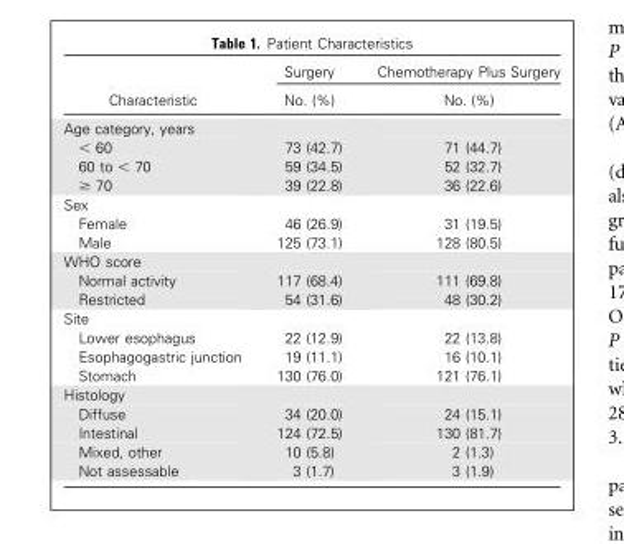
<table><thead><tr><td rowspan="2">Characteristic</td><td rowspan="2">Surgery No. (%)</td><td rowspan="2">Chemotherapy Plus Surgery No. (%)</td></tr><tr></tr></thead><tbody><tr><td colspan="3">Age category, years</td></tr><tr><td>&lt; 60</td><td>73 (42.7)</td><td>71 (44.7)</td></tr><tr><td>60 to &lt; 70</td><td>59 (34.5)</td><td>52 (32.7)</td></tr><tr><td>≥ 70</td><td>39 (22.8)</td><td>36 (22.6)</td></tr><tr><td colspan="3">Sex</td></tr><tr><td>Female</td><td>46 (26.9)</td><td>31 (19.5)</td></tr><tr><td>Male</td><td>125 (73.1)</td><td>128 (80.5)</td></tr><tr><td colspan="3">WHO score</td></tr><tr><td>Normal activity</td><td>117 (68.4)</td><td>111 (69.8)</td></tr><tr><td>Restricted</td><td>54 (31.6)</td><td>48 (30.2)</td></tr><tr><td colspan="3">Site</td></tr><tr><td>Lower esophagus</td><td>22 (12.9)</td><td>22 (13.8)</td></tr><tr><td>Esophagogastric junction</td><td>19 (11.1)</td><td>16 (10.1)</td></tr><tr><td>Stomach</td><td>130 (76.0)</td><td>121 (76.1)</td></tr><tr><td colspan="3">Histology</td></tr><tr><td>Diffuse</td><td>34 (20.0)</td><td>24 (15.1)</td></tr><tr><td>Intestinal</td><td>124 (72.5)</td><td>130 (81.7)</td></tr><tr><td>Mixed, other</td><td>10 (5.8)</td><td>2 (1.3)</td></tr><tr><td>Not assessable</td><td>3 (1.7)</td><td>3 (1.9)</td></tr></tbody></table>